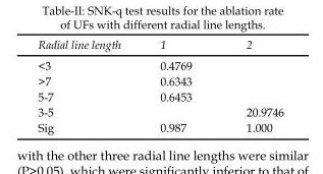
<table><thead><tr><td>Radial line length</td><td>1</td><td>2</td></tr></thead><tbody><tr><td>&lt;3</td><td>0.4769</td><td></td></tr><tr><td>&gt;7</td><td>0.6343</td><td></td></tr><tr><td>5-7</td><td>0.6453</td><td></td></tr><tr><td>3-5</td><td></td><td>20.9746</td></tr><tr><td>Sig</td><td>0.987</td><td>1.000</td></tr></tbody></table>